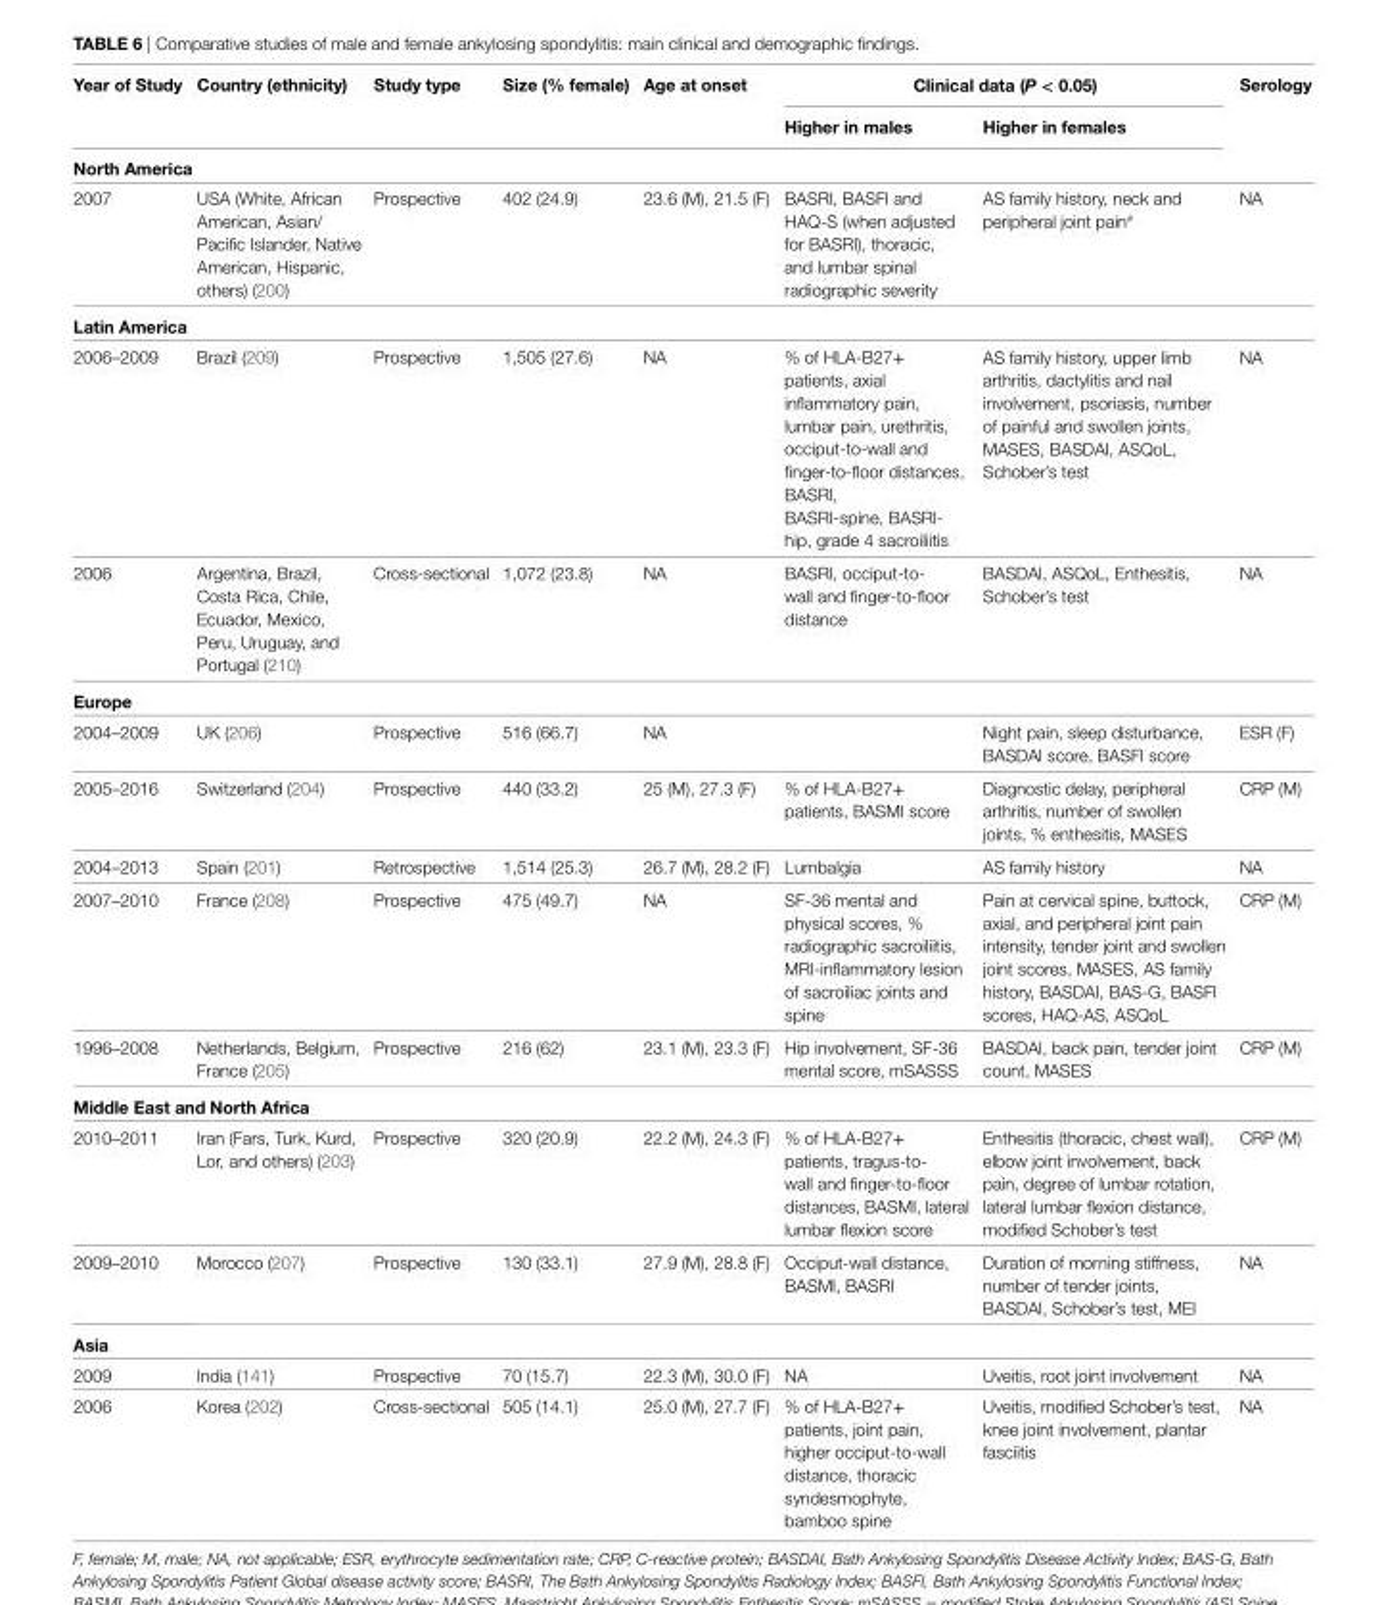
<table><thead><tr><td rowspan="2">year of Study</td><td rowspan="2">country (ethnicity)</td><td rowspan="2">Study type</td><td rowspan="2">Size (% female)</td><td rowspan="2">age at onset</td><td colspan="2">clinical data (P &lt; 0.05)</td><td rowspan="2">Serology</td></tr><tr><td>Higher in males</td><td>Higher in females</td></tr></thead><tbody><tr><td colspan="8">North america</td></tr><tr><td>2007</td><td>USA (White, African American, Asian/ Pacific Islander, Native American, Hispanic, others) (200)</td><td>Prospective</td><td>402 (24.9)</td><td>23.6 (M), 21.5 (F)</td><td>BASRI, BASFI and HAQ-S (when adjusted for BASRI), thoracic, and lumbar spinal radiographic severity</td><td>AS family history, neck and peripheral joint pain<sup>#</sup></td><td>NA</td></tr><tr><td colspan="8">Latin america</td></tr><tr><td>2006–2009</td><td>Brazil (209)</td><td>Prospective</td><td>1,505 (27.6)</td><td>NA</td><td>% of HLA-B27+ patients, axial inflammatory pain, lumbar pain, urethritis, occiput-to-wall and finger-to-floor distances, BASRI, BASRI-spine, BASRI- hip, grade 4 sacroiliitis</td><td>AS family history, upper limb arthritis, dactylitis and nail involvement, psoriasis, number of painful and swollen joints, MASES, BASDAI, ASQoL, Schober’s test</td><td>NA</td></tr><tr><td>2006</td><td>Argentina, Brazil, Costa Rica, Chile, Ecuador, Mexico, Peru, Uruguay, and Portugal (210)</td><td>Cross-sectional</td><td>1,072 (23.8)</td><td>NA</td><td>BASRI, occiput-to- wall and finger-to-floor distance</td><td>BASDAI, ASQoL, Enthesitis, Schober’s test</td><td>NA</td></tr><tr><td colspan="8">europe</td></tr><tr><td>2004–2009</td><td>UK (206)</td><td>Prospective</td><td>516 (66.7)</td><td>NA</td><td></td><td>Night pain, sleep disturbance, BASDAI score, BASFI score</td><td>ESR (F)</td></tr><tr><td>2005–2016</td><td>Switzerland (204)</td><td>Prospective</td><td>440 (33.2)</td><td>25 (M), 27.3 (F)</td><td>% of HLA-B27+ patients, BASMI score</td><td>Diagnostic delay, peripheral arthritis, number of swollen joints, % enthesitis, MASES</td><td>CRP (M)</td></tr><tr><td>2004–2013</td><td>Spain (201)</td><td>Retrospective</td><td>1,514 (25.3)</td><td>26.7 (M), 28.2 (F)</td><td>Lumbalgia</td><td>AS family history</td><td>NA</td></tr><tr><td>2007–2010</td><td>France (208)</td><td>Prospective</td><td>475 (49.7)</td><td>NA</td><td>SF-36 mental and physical scores, % radiographic sacroiliitis, MRI-inflammatory lesion of sacroiliac joints and spine</td><td>Pain at cervical spine, buttock, axial, and peripheral joint pain intensity, tender joint and swollen joint scores, MASES, AS family history, BASDAI, BAS-G, BASFI scores, HAQ-AS, ASQoL</td><td>CRP (M)</td></tr><tr><td>1996–2008</td><td>Netherlands, Belgium, France (205)</td><td>Prospective</td><td>216 (62)</td><td>23.1 (M), 23.3 (F)</td><td>Hip involvement, SF-36 mental score, mSASSS</td><td>BASDAI, back pain, tender joint count, MASES</td><td>CRP (M)</td></tr><tr><td colspan="8">middle east and North africa</td></tr><tr><td>2010–2011</td><td>Iran (Fars, Turk, Kurd, Lor, and others) (203)</td><td>Prospective</td><td>320 (20.9)</td><td>22.2 (M), 24.3 (F)</td><td>% of HLA-B27+ patients, tragus-to- wall and finger-to-floor distances, BASMI, lateral lumbar flexion score</td><td>Enthesitis (thoracic, chest wall), elbow joint involvement, back pain, degree of lumbar rotation, lateral lumbar flexion distance, modified Schober’s test</td><td>CRP (M)</td></tr><tr><td>2009–2010</td><td>Morocco (207)</td><td>Prospective</td><td>130 (33.1)</td><td>27.9 (M), 28.8 (F)</td><td>Occiput-wall distance, BASMI, BASRI</td><td>Duration of morning stiffness, number of tender joints, BASDAI, Schober’s test, MEI</td><td>NA</td></tr><tr><td colspan="8">asia</td></tr><tr><td>2009</td><td>India (141)</td><td>Prospective</td><td>70 (15.7)</td><td>22.3 (M), 30.0 (F)</td><td>NA</td><td>Uveitis, root joint involvement</td><td>NA</td></tr><tr><td>2006</td><td>Korea (202)</td><td>Cross-sectional</td><td>505 (14.1)</td><td>25.0 (M), 27.7 (F)</td><td>% of HLA-B27+ patients, joint pain, higher occiput-to-wall distance, thoracic syndesmophyte, bamboo spine</td><td>Uveitis, modified Schober’s test, knee joint involvement, plantar fasciitis</td><td>NA</td></tr></tbody></table>